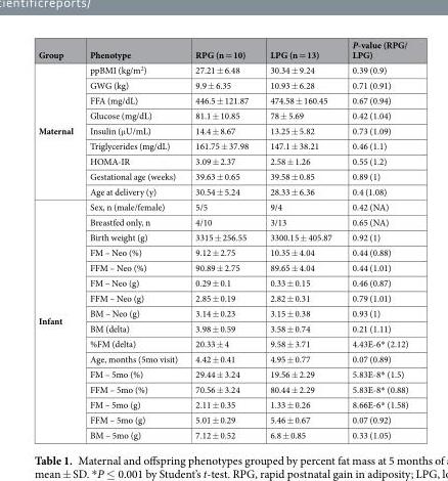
<table><thead><tr><td>Group</td><td>Phenotype</td><td>RPG (n = 10)</td><td>LPG (n = 13)</td><td>P-value (RPG/ LPG)</td></tr></thead><tbody><tr><td rowspan="9">Maternal</td><td>ppBMI (kg/m<sup>2</sup>)</td><td>27.21 ± 6.48</td><td>30.34 ± 9.24</td><td>0.39 (0.9)</td></tr><tr><td>GWG (kg)</td><td>9.9 ± 6.35</td><td>10.93 ± 6.28</td><td>0.71 (0.91)</td></tr><tr><td>FFA (mg/dL)</td><td>446.5 ± 121.87</td><td>474.58 ± 160.45</td><td>0.67 (0.94)</td></tr><tr><td>Glucose (mg/dL)</td><td>81.1 ± 10.85</td><td>78 ± 5.69</td><td>0.42 (1.04)</td></tr><tr><td>Insulin (μU/mL)</td><td>14.4 ± 8.67</td><td>13.25 ± 5.82</td><td>0.73 (1.09)</td></tr><tr><td>Triglycerides (mg/dL)</td><td>161.75 ± 37.98</td><td>147.1 ± 38.21</td><td>0.46 (1.1)</td></tr><tr><td>HOMA-IR</td><td>3.09 ± 2.37</td><td>2.58 ± 1.26</td><td>0.55 (1.2)</td></tr><tr><td>Gestational age (weeks)</td><td>39.63 ± 0.65</td><td>39.58 ± 0.85</td><td>0.89 (1)</td></tr><tr><td>Age at delivery (y)</td><td>30.54 ± 5.24</td><td>28.33 ± 6.36</td><td>0.4 (1.08)</td></tr><tr><td rowspan="16">Infant</td><td>Sex, n (male/female)</td><td>5/5</td><td>9/4</td><td>0.42 (NA)</td></tr><tr><td>Breastfed only, n</td><td>4/10</td><td>3/13</td><td>0.65 (NA)</td></tr><tr><td>Birth weight (g)</td><td>3315 ± 256.55</td><td>3300.15 ± 405.87</td><td>0.92 (1)</td></tr><tr><td>FM – Neo (%)</td><td>9.12 ± 2.75</td><td>10.35 ± 4.04</td><td>0.44 (0.88)</td></tr><tr><td>FFM – Neo (%)</td><td>90.89 ± 2.75</td><td>89.65 ± 4.04</td><td>0.44 (1.01)</td></tr><tr><td>FM – Neo (g)</td><td>0.29 ± 0.1</td><td>0.33 ± 0.15</td><td>0.46 (0.87)</td></tr><tr><td>FFM – Neo (g)</td><td>2.85 ± 0.19</td><td>2.82 ± 0.31</td><td>0.79 (1.01)</td></tr><tr><td>BM – Neo (g)</td><td>3.14 ± 0.23</td><td>3.15 ± 0.38</td><td>0.93 (1)</td></tr><tr><td>BM (delta)</td><td>3.98 ± 0.59</td><td>3.58 ± 0.74</td><td>0.21 (1.11)</td></tr><tr><td>%FM (delta)</td><td>20.33 ± 4</td><td>9.58 ± 3.71</td><td>4.43E-6* (2.12)</td></tr><tr><td>Age, months (5mo visit)</td><td>4.42 ± 0.41</td><td>4.95 ± 0.77</td><td>0.07 (0.89)</td></tr><tr><td>FM – 5mo (%)</td><td>29.44 ± 3.24</td><td>19.56 ± 2.29</td><td>5.83E-8* (1.5)</td></tr><tr><td>FFM – 5mo (%)</td><td>70.56 ± 3.24</td><td>80.44 ± 2.29</td><td>5.83E-8* (0.88)</td></tr><tr><td>FM – 5mo (g)</td><td>2.11 ± 0.35</td><td>1.33 ± 0.26</td><td>8.66E-6* (1.58)</td></tr><tr><td>FFM – 5mo (g)</td><td>5.01 ± 0.29</td><td>5.46 ± 0.67</td><td>0.07 (0.92)</td></tr><tr><td>BM – 5mo (g)</td><td>7.12 ± 0.52</td><td>6.8 ± 0.85</td><td>0.33 (1.05)</td></tr></tbody></table>